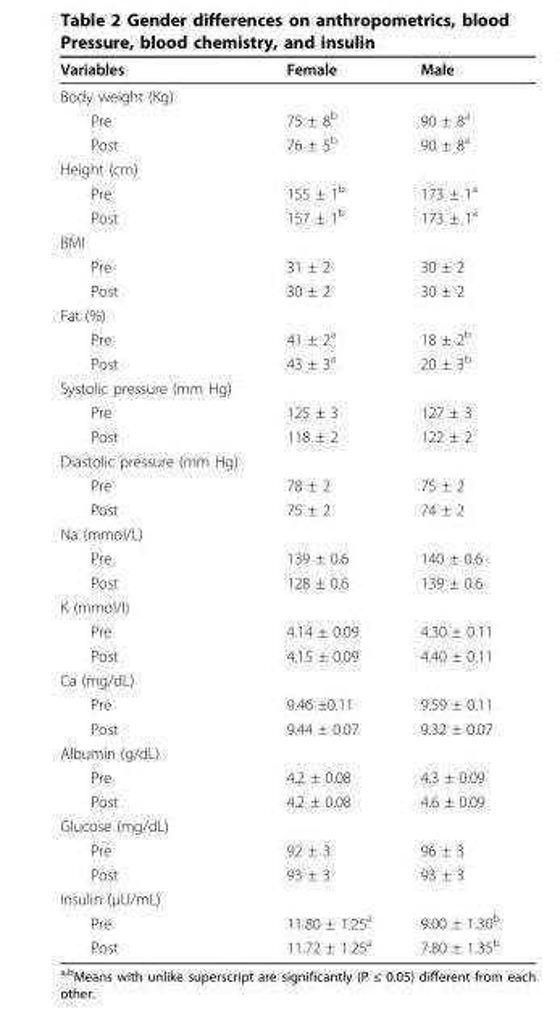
<table><thead><tr><td>Variables</td><td>Female</td><td>Male</td></tr></thead><tbody><tr><td colspan="3">Body weight (Kg)</td></tr><tr><td>Pre</td><td>75 ± 8<sup>b</sup></td><td>90 ± 8<sup>a</sup></td></tr><tr><td>Post</td><td>76 ± 5<sup>b</sup></td><td>90 ± 8<sup>a</sup></td></tr><tr><td colspan="3">Height (cm)</td></tr><tr><td>Pre</td><td>155 ± 1<sup>b</sup></td><td>173 ± 1<sup>a</sup></td></tr><tr><td>Post</td><td>157 ± 1<sup>b</sup></td><td>173 ± 1<sup>a</sup></td></tr><tr><td colspan="3">BMI</td></tr><tr><td>Pre</td><td>31 ± 2</td><td>30 ± 2</td></tr><tr><td>Post</td><td>30 ± 2</td><td>30 ± 2</td></tr><tr><td colspan="3">Fat (%)</td></tr><tr><td>Pre</td><td>41 ± 2<sup>a</sup></td><td>18 ± 2<sup>b</sup></td></tr><tr><td>Post</td><td>43 ± 3<sup>a</sup></td><td>20 ± 3<sup>b</sup></td></tr><tr><td colspan="3">Systolic pressure (mm Hg)</td></tr><tr><td>Pre</td><td>125 ± 3</td><td>127 ± 3</td></tr><tr><td>Post</td><td>118 ± 2</td><td>122 ± 2</td></tr><tr><td colspan="3">Diastolic pressure (mm Hg)</td></tr><tr><td>Pre</td><td>78 ± 2</td><td>75 ± 2</td></tr><tr><td>Post</td><td>75 ± 2</td><td>74 ± 2</td></tr><tr><td colspan="3">Na (mmol/L)</td></tr><tr><td>Pre</td><td>139 ± 0.6</td><td>140 ± 0.6</td></tr><tr><td>Post</td><td>128 ± 0.6</td><td>139 ± 0.6</td></tr><tr><td colspan="3">K (mmol/l)</td></tr><tr><td>Pre</td><td>4.14 ± 0.09</td><td>4.30 ± 0.11</td></tr><tr><td>Post</td><td>4.15 ± 0.09</td><td>4.40 ± 0.11</td></tr><tr><td colspan="3">Ca (mg/dL)</td></tr><tr><td>Pre</td><td>9.46 ±0.11</td><td>9.59 ± 0.11</td></tr><tr><td>Post</td><td>9.44 ± 0.07</td><td>9.32 ± 0.07</td></tr><tr><td colspan="3">Albumin (g/dL)</td></tr><tr><td>Pre</td><td>4.2 ± 0.08</td><td>4.3 ± 0.09</td></tr><tr><td>Post</td><td>4.2 ± 0.08</td><td>4.6 ± 0.09</td></tr><tr><td colspan="3">Glucose (mg/dL)</td></tr><tr><td>Pre</td><td>92 ± 3</td><td>96 ± 3</td></tr><tr><td>Post</td><td>93 ± 3</td><td>93 ± 3</td></tr><tr><td colspan="3">Insulin (μU/mL)</td></tr><tr><td>Pre</td><td>11.80 ± 1.25<sup>a</sup></td><td>9.00 ± 1.30<sup>b</sup></td></tr><tr><td>Post</td><td>11.72 ± 1.25<sup>a</sup></td><td>7.80 ± 1.35<sup>b</sup></td></tr></tbody></table>